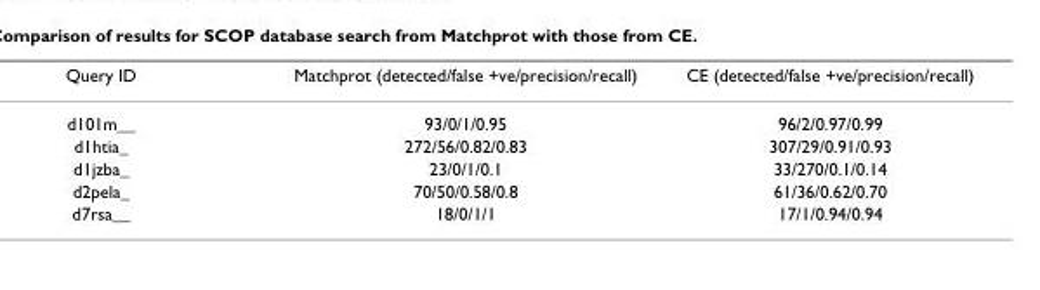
<table><thead><tr><td>Query ID</td><td>Matchprot (detected/false +ve/precision/recall)</td><td>CE (detected/false +ve/precision/recall)</td></tr></thead><tbody><tr><td>d101m__</td><td>93/0/1/0.95</td><td>96/2/0.97/0.99</td></tr><tr><td>d1htia_</td><td>272/56/0.82/0.83</td><td>307/29/0.91/0.93</td></tr><tr><td>d1jzba_</td><td>23/0/1/0.1</td><td>33/270/0.1/0.14</td></tr><tr><td>d2pela_</td><td>70/50/0.58/0.8</td><td>61/36/0.62/0.70</td></tr><tr><td>d7rsa__</td><td>18/0/1/1</td><td>17/1/0.94/0.94</td></tr></tbody></table>